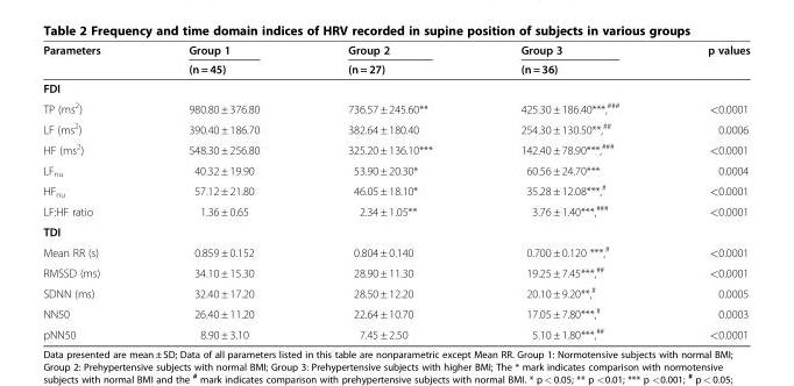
<table><thead><tr><td rowspan="2">Parameters</td><td rowspan="2">Group 1 (n = 45)</td><td rowspan="2">Group 2 (n = 27)</td><td rowspan="2">Group 3 (n = 36)</td><td rowspan="2">p values</td></tr><tr></tr></thead><tbody><tr><td colspan="5">FDI</td></tr><tr><td>TP (ms<sup>2</sup>)</td><td>980.80 ± 376.80</td><td>736.57 ± 245.60**</td><td>425.30 ± 186.40***,<sup>###</sup></td><td>&lt;0.0001</td></tr><tr><td>LF (ms<sup>2</sup>)</td><td>390.40 ± 186.70</td><td>382.64 ± 180.40</td><td>254.30 ± 130.50**,<sup>##</sup></td><td>0.0006</td></tr><tr><td>HF (ms<sup>2</sup>)</td><td>548.30 ± 256.80</td><td>325.20 ± 136.10***</td><td>142.40 ± 78.90***,<sup>###</sup></td><td>&lt;0.0001</td></tr><tr><td>LF<sub>nu</sub></td><td>40.32 ± 19.90</td><td>53.90 ± 20.30*</td><td>60.56 ± 24.70***</td><td>0.0004</td></tr><tr><td>HF<sub>nu</sub></td><td>57.12 ± 21.80</td><td>46.05 ± 18.10*</td><td>35.28 ± 12.08***,<sup>#</sup></td><td>&lt;0.0001</td></tr><tr><td>LF:HF ratio</td><td>1.36 ± 0.65</td><td>2.34 ± 1.05**</td><td>3.76 ± 1.40***,<sup>###</sup></td><td>&lt;0.0001</td></tr><tr><td colspan="5">TDI</td></tr><tr><td>Mean RR (s)</td><td>0.859 ± 0.152</td><td>0.804 ± 0.140</td><td>0.700 ± 0.120 ***,<sup>#</sup></td><td>&lt;0.0001</td></tr><tr><td>RMSSD (ms)</td><td>34.10 ± 15.30</td><td>28.90 ± 11.30</td><td>19.25 ± 7.45***,<sup>##</sup></td><td>&lt;0.0001</td></tr><tr><td>SDNN (ms)</td><td>32.40 ± 17.20</td><td>28.50 ± 12.20</td><td>20.10 ± 9.20**,<sup>#</sup></td><td>0.0005</td></tr><tr><td>NN50</td><td>26.40 ± 11.20</td><td>22.64 ± 10.70</td><td>17.05 ± 7.80***,<sup>#</sup></td><td>0.0003</td></tr><tr><td>pNN50</td><td>8.90 ± 3.10</td><td>7.45 ± 2.50</td><td>5.10 ± 1.80***,<sup>##</sup></td><td>&lt;0.0001</td></tr></tbody></table>